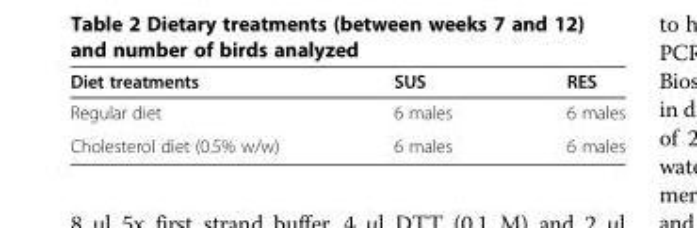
<table><thead><tr><td>Diet treatments</td><td>SUS</td><td>RES</td></tr></thead><tbody><tr><td>Regular diet</td><td>6 males</td><td>6 males</td></tr><tr><td>Cholesterol diet (0.5% w/w)</td><td>6 males</td><td>6 males</td></tr></tbody></table>